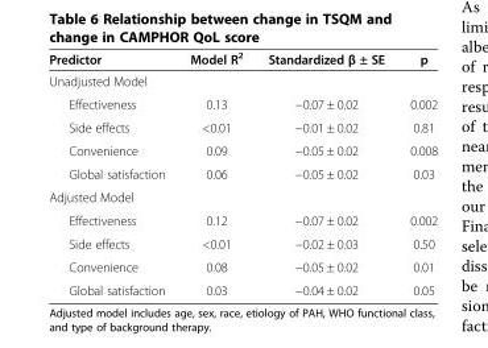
<table><thead><tr><td>Predictor</td><td>Model R<sup>2</sup></td><td>Standardized β ± SE</td><td>p</td></tr></thead><tbody><tr><td colspan="4">Unadjusted Model</td></tr><tr><td>Effectiveness</td><td>0.13</td><td>−0.07 ± 0.02</td><td>0.002</td></tr><tr><td>Side effects</td><td>&lt;0.01</td><td>−0.01 ± 0.02</td><td>0.81</td></tr><tr><td>Convenience</td><td>0.09</td><td>−0.05 ± 0.02</td><td>0.008</td></tr><tr><td>Global satisfaction</td><td>0.06</td><td>−0.05 ± 0.02</td><td>0.03</td></tr><tr><td colspan="4">Adjusted Model</td></tr><tr><td>Effectiveness</td><td>0.12</td><td>−0.07 ± 0.02</td><td>0.002</td></tr><tr><td>Side effects</td><td>&lt;0.01</td><td>−0.02 ± 0.03</td><td>0.50</td></tr><tr><td>Convenience</td><td>0.08</td><td>−0.05 ± 0.02</td><td>0.01</td></tr><tr><td>Global satisfaction</td><td>0.03</td><td>−0.04 ± 0.02</td><td>0.05</td></tr></tbody></table>